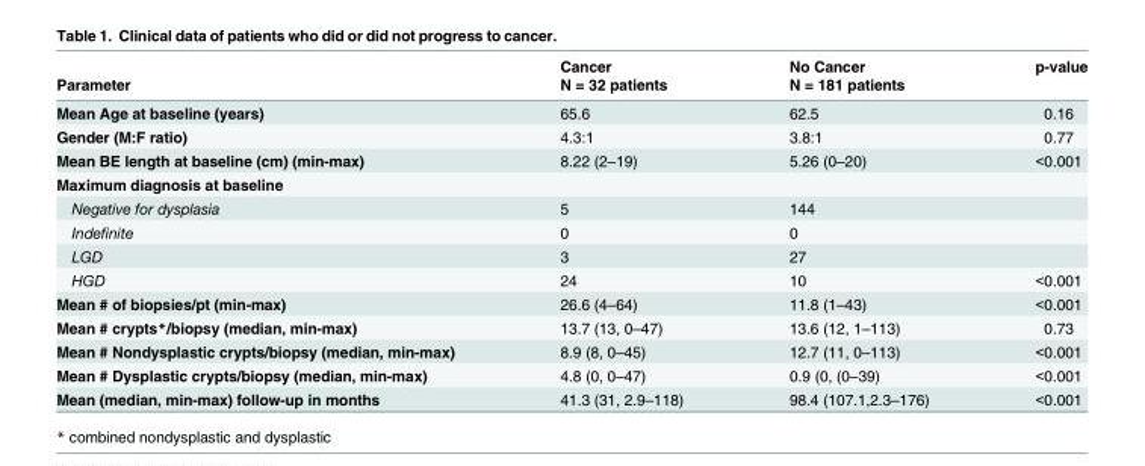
<table><thead><tr><td rowspan="2">Parameter</td><td rowspan="2">Cancer N = 32 patients</td><td rowspan="2">No Cancer N = 181 patients</td><td rowspan="2">p-value</td></tr><tr></tr></thead><tbody><tr><td>Mean Age at baseline (years)</td><td>65.6</td><td>62.5</td><td>0.16</td></tr><tr><td>Gender (M:F ratio)</td><td>4.3:1</td><td>3.8:1</td><td>0.77</td></tr><tr><td>Mean BE length at baseline (cm) (min-max)</td><td>8.22 (2–19)</td><td>5.26 (0–20)</td><td>&lt;0.001</td></tr><tr><td colspan="4">Maximum diagnosis at baseline</td></tr><tr><td>Negative for dysplasia</td><td>5</td><td>144</td><td></td></tr><tr><td>Indefinite</td><td>0</td><td>0</td><td></td></tr><tr><td>LGD</td><td>3</td><td>27</td><td></td></tr><tr><td>HGD</td><td>24</td><td>10</td><td>&lt;0.001</td></tr><tr><td>Mean # of biopsies/pt (min-max)</td><td>26.6 (4–64)</td><td>11.8 (1–43)</td><td>&lt;0.001</td></tr><tr><td>Mean # crypts*/biopsy (median, min-max)</td><td>13.7 (13, 0–47)</td><td>13.6 (12, 1–113)</td><td>0.73</td></tr><tr><td>Mean # Nondysplastic crypts/biopsy (median, min-max)</td><td>8.9 (8, 0–45)</td><td>12.7 (11, 0–113)</td><td>&lt;0.001</td></tr><tr><td>Mean # Dysplastic crypts/biopsy (median, min-max)</td><td>4.8 (0, 0–47)</td><td>0.9 (0, (0–39)</td><td>&lt;0.001</td></tr><tr><td>Mean (median, min-max) follow-up in months</td><td>41.3 (31, 2.9–118)</td><td>98.4 (107.1,2.3–176)</td><td>&lt;0.001</td></tr></tbody></table>